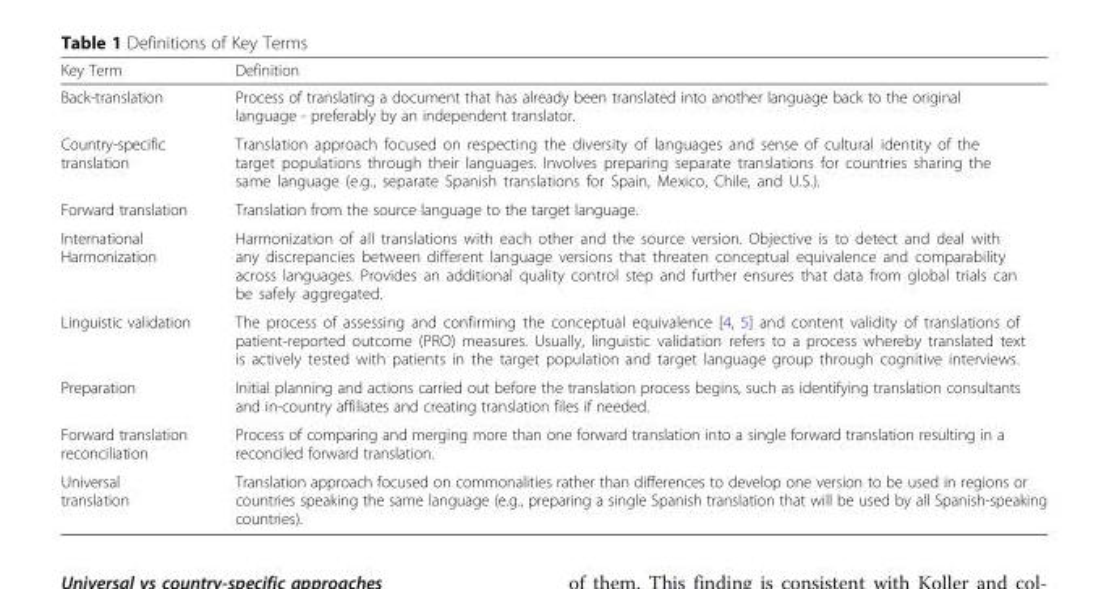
<table><thead><tr><td>Key Term</td><td>Definition</td></tr></thead><tbody><tr><td>Back-translation</td><td>Process of translating a document that has already been translated into another language back to the original language - preferably by an independent translator.</td></tr><tr><td>Country-specific translation</td><td>Translation approach focused on respecting the diversity of languages and sense of cultural identity of the target populations through their languages. Involves preparing separate translations for countries sharing the same language (e.g., separate Spanish translations for Spain, Mexico, Chile, and U.S.).</td></tr><tr><td>Forward translation</td><td>Translation from the source language to the target language.</td></tr><tr><td>International Harmonization</td><td>Harmonization of all translations with each other and the source version. Objective is to detect and deal with any discrepancies between different language versions that threaten conceptual equivalence and comparability across languages. Provides an additional quality control step and further ensures that data from global trials can be safely aggregated.</td></tr><tr><td>Linguistic validation</td><td>The process of assessing and confirming the conceptual equivalence [4, 5] and content validity of translations of patient-reported outcome (PRO) measures. Usually, linguistic validation refers to a process whereby translated text is actively tested with patients in the target population and target language group through cognitive interviews.</td></tr><tr><td>Preparation</td><td>Initial planning and actions carried out before the translation process begins, such as identifying translation consultants and in-country affiliates and creating translation files if needed.</td></tr><tr><td>Forward translation reconciliation</td><td>Process of comparing and merging more than one forward translation into a single forward translation resulting in a reconciled forward translation.</td></tr><tr><td>Universal translation</td><td>Translation approach focused on commonalities rather than differences to develop one version to be used in regions or countries speaking the same language (e.g., preparing a single Spanish translation that will be used by all Spanish-speaking countries).</td></tr></tbody></table>